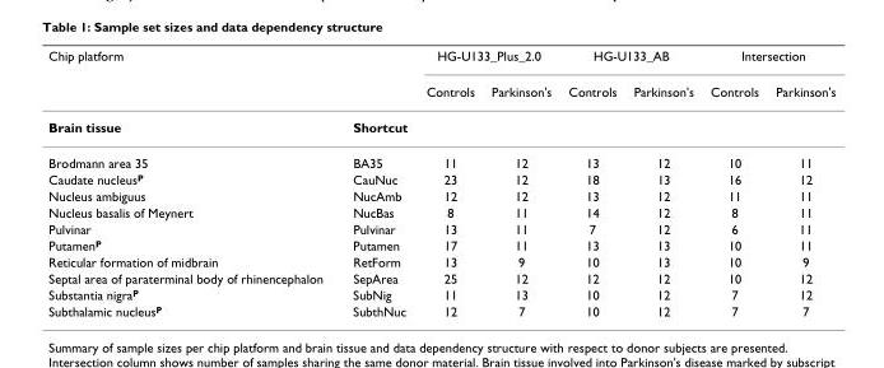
<table><thead><tr><td colspan="2">Chip platform</td><td colspan="2">HG-U133_Plus_2.0</td><td colspan="2">HG-U133_AB</td><td colspan="2">Intersection</td></tr><tr><td></td><td></td><td>Controls</td><td>Parkinson&#x27;s</td><td>Controls</td><td>Parkinson&#x27;s</td><td>Controls</td><td>Parkinson&#x27;s</td></tr></thead><tbody><tr><td>Brain tissue</td><td>Shortcut</td><td></td><td></td><td></td><td></td><td></td><td></td></tr><tr><td>Brodmann area 35</td><td>BA35</td><td>11</td><td>12</td><td>13</td><td>12</td><td>10</td><td>11</td></tr><tr><td>Caudate nucleus<sup>P</sup></td><td>CauNuc</td><td>23</td><td>12</td><td>18</td><td>13</td><td>16</td><td>12</td></tr><tr><td>Nucleus ambiguus</td><td>NucAmb</td><td>12</td><td>12</td><td>13</td><td>12</td><td>11</td><td>11</td></tr><tr><td>Nucleus basalis of Meynert</td><td>NucBas</td><td>8</td><td>11</td><td>14</td><td>12</td><td>8</td><td>11</td></tr><tr><td>Pulvinar</td><td>Pulvinar</td><td>13</td><td>11</td><td>7</td><td>12</td><td>6</td><td>11</td></tr><tr><td>Putamen<sup>P</sup></td><td>Putamen</td><td>17</td><td>11</td><td>13</td><td>13</td><td>10</td><td>11</td></tr><tr><td>Reticular formation of midbrain</td><td>RetForm</td><td>13</td><td>9</td><td>10</td><td>13</td><td>10</td><td>9</td></tr><tr><td>Septal area of paraterminal body of rhinencephalon</td><td>SepArea</td><td>25</td><td>12</td><td>12</td><td>12</td><td>10</td><td>12</td></tr><tr><td>Substantia nigra<sup>P</sup></td><td>SubNig</td><td>11</td><td>13</td><td>10</td><td>12</td><td>7</td><td>12</td></tr><tr><td>Subthalamic nucleus<sup>P</sup></td><td>SubthNuc</td><td>12</td><td>7</td><td>10</td><td>12</td><td>7</td><td>7</td></tr></tbody></table>